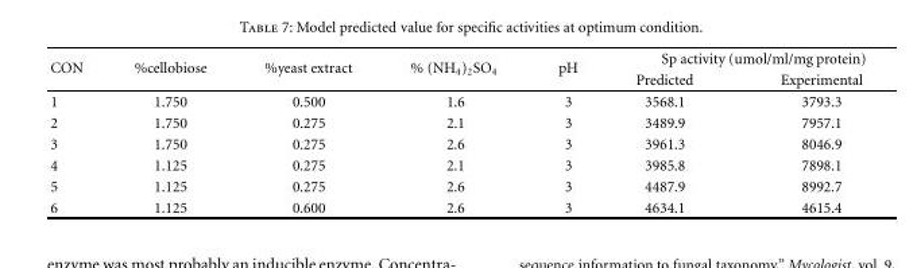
<table><thead><tr><td rowspan="2">CON</td><td rowspan="2">%cellobiose</td><td rowspan="2">%yeast extract</td><td rowspan="2">% (NH<sub>4</sub>)<sub>2</sub>SO<sub>4</sub></td><td rowspan="2">pH</td><td colspan="2">Sp activity (umol/ml/mg protein)</td></tr><tr><td>Predicted</td><td>Experimental</td></tr></thead><tbody><tr><td>1</td><td>1.750</td><td>0.500</td><td>1.6</td><td>3</td><td>3568.1</td><td>3793.3</td></tr><tr><td>2</td><td>1.750</td><td>0.275</td><td>2.1</td><td>3</td><td>3489.9</td><td>7957.1</td></tr><tr><td>3</td><td>1.750</td><td>0.275</td><td>2.6</td><td>3</td><td>3961.3</td><td>8046.9</td></tr><tr><td>4</td><td>1.125</td><td>0.275</td><td>2.1</td><td>3</td><td>3985.8</td><td>7898.1</td></tr><tr><td>5</td><td>1.125</td><td>0.275</td><td>2.6</td><td>3</td><td>4487.9</td><td>8992.7</td></tr><tr><td>6</td><td>1.125</td><td>0.600</td><td>2.6</td><td>3</td><td>4634.1</td><td>4615.4</td></tr></tbody></table>